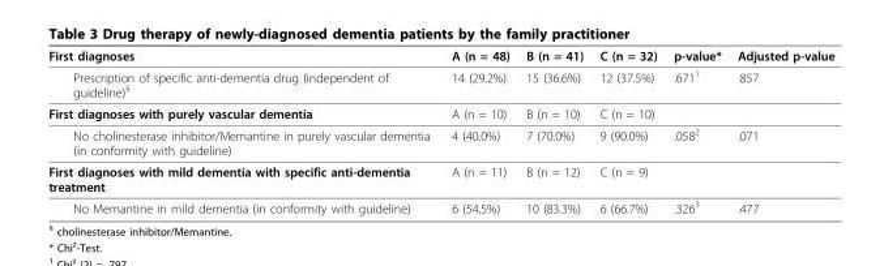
<table><thead><tr><td>First diagnoses</td><td>A (n = 48)</td><td>B (n = 41)</td><td>C (n = 32)</td><td>p-value*</td><td>Adjusted p-value</td></tr></thead><tbody><tr><td>Prescription of specific anti-dementia drug (independent of guideline)<sup>§</sup></td><td>14 (29.2%)</td><td>15 (36.6%)</td><td>12 (37.5%)</td><td>.671<sup>1</sup></td><td>.857</td></tr><tr><td>First diagnoses with purely vascular dementia</td><td>A (n = 10)</td><td>B (n = 10)</td><td>C (n = 10)</td><td></td><td></td></tr><tr><td>No cholinesterase inhibitor/Memantine in purely vascular dementia (in conformity with guideline)</td><td>4 (40.0%)</td><td>7 (70.0%)</td><td>9 (90.0%)</td><td>.058<sup>2</sup></td><td>.071</td></tr><tr><td>First diagnoses with mild dementia with specific anti-dementia treatment</td><td>A (n = 11)</td><td>B (n = 12)</td><td>C (n = 9)</td><td></td><td></td></tr><tr><td>No Memantine in mild dementia (in conformity with guideline)</td><td>6 (54.5%)</td><td>10 (83.3%)</td><td>6 (66.7%)</td><td>.326<sup>3</sup></td><td>.477</td></tr></tbody></table>